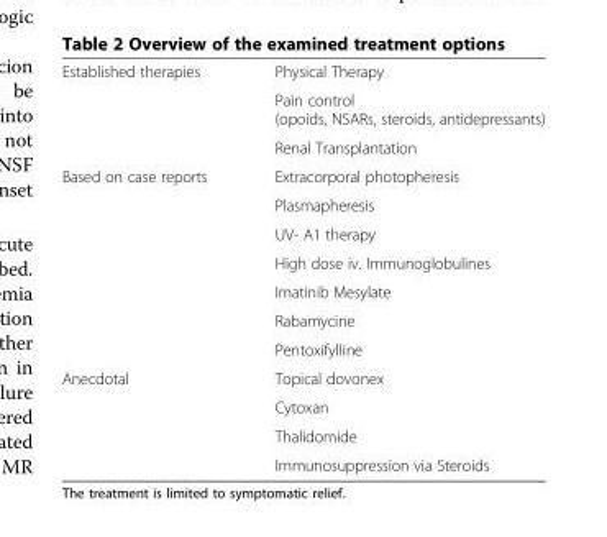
<table><tbody><tr><td rowspan="3">Established therapies</td><td>Physical Therapy</td></tr><tr><td>Pain control (opoids, NSARs, steroids, antidepressants)</td></tr><tr><td>Renal Transplantation</td></tr><tr><td rowspan="7">Based on case reports</td><td>Extracorporal photopheresis</td></tr><tr><td>Plasmapheresis</td></tr><tr><td>UV- A1 therapy</td></tr><tr><td>High dose iv. Immunoglobulines</td></tr><tr><td>Imatinib Mesylate</td></tr><tr><td>Rabamycine</td></tr><tr><td>Pentoxifylline</td></tr><tr><td rowspan="4">Anecdotal</td><td>Topical dovonex</td></tr><tr><td>Cytoxan</td></tr><tr><td>Thalidomide</td></tr><tr><td>Immunosuppression via Steroids</td></tr></tbody></table>